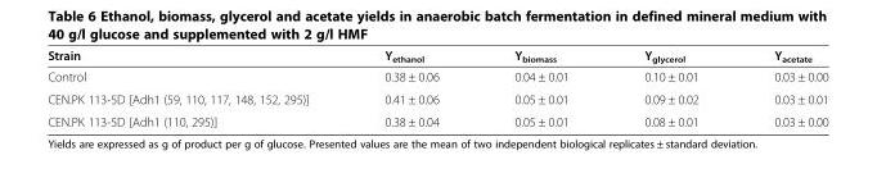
<table><thead><tr><td>Strain</td><td>Y<sub>ethanol</sub></td><td>Y<sub>biomass</sub></td><td>Y<sub>glycerol</sub></td><td>Y<sub>acetate</sub></td></tr></thead><tbody><tr><td>Control</td><td>0.38 ± 0.06</td><td>0.04 ± 0.01</td><td>0.10 ± 0.01</td><td>0.03 ± 0.00</td></tr><tr><td>CEN.PK 113-5D [Adh1 (59, 110, 117, 148, 152, 295)]</td><td>0.41 ± 0.06</td><td>0.05 ± 0.01</td><td>0.09 ± 0.02</td><td>0.03 ± 0.01</td></tr><tr><td>CEN.PK 113-5D [Adh1 (110, 295)]</td><td>0.38 ± 0.04</td><td>0.05 ± 0.01</td><td>0.08 ± 0.01</td><td>0.03 ± 0.00</td></tr></tbody></table>